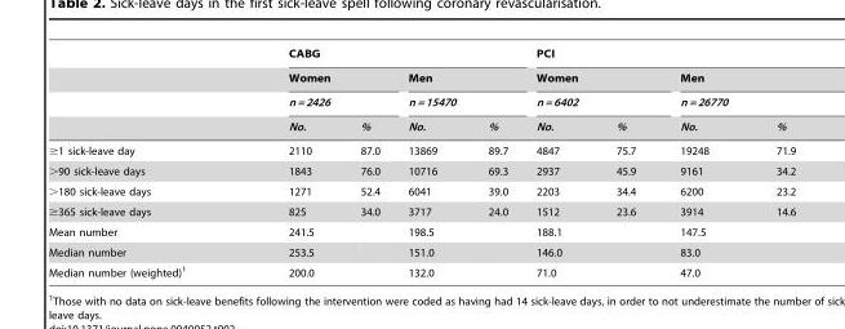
<table><thead><tr><td rowspan="4"></td><td colspan="4">CABG</td><td colspan="4">PCI</td></tr><tr><td rowspan="2" colspan="2">Women n = 2426</td><td rowspan="2" colspan="2">Men n = 15470</td><td rowspan="2" colspan="2">Women n = 6402</td><td rowspan="2" colspan="2">Men n = 26770</td></tr><tr></tr><tr><td>No.</td><td>%</td><td>No.</td><td>%</td><td>No.</td><td>%</td><td>No.</td><td>%</td></tr></thead><tbody><tr><td>≥1 sick-leave day</td><td>2110</td><td>87.0</td><td>13869</td><td>89.7</td><td>4847</td><td>75.7</td><td>19248</td><td>71.9</td></tr><tr><td>&gt;90 sick-leave days</td><td>1843</td><td>76.0</td><td>10716</td><td>69.3</td><td>2937</td><td>45.9</td><td>9161</td><td>34.2</td></tr><tr><td>&gt;180 sick-leave days</td><td>1271</td><td>52.4</td><td>6041</td><td>39.0</td><td>2203</td><td>34.4</td><td>6200</td><td>23.2</td></tr><tr><td>≥365 sick-leave days</td><td>825</td><td>34.0</td><td>3717</td><td>24.0</td><td>1512</td><td>23.6</td><td>3914</td><td>14.6</td></tr><tr><td>Mean number</td><td>241.5</td><td></td><td>198.5</td><td></td><td>188.1</td><td></td><td>147.5</td><td></td></tr><tr><td>Median number</td><td>253.5</td><td></td><td>151.0</td><td></td><td>146.0</td><td></td><td>83.0</td><td></td></tr><tr><td>Median number (weighted)<sup>1</sup></td><td>200.0</td><td></td><td>132.0</td><td></td><td>71.0</td><td></td><td>47.0</td><td></td></tr></tbody></table>